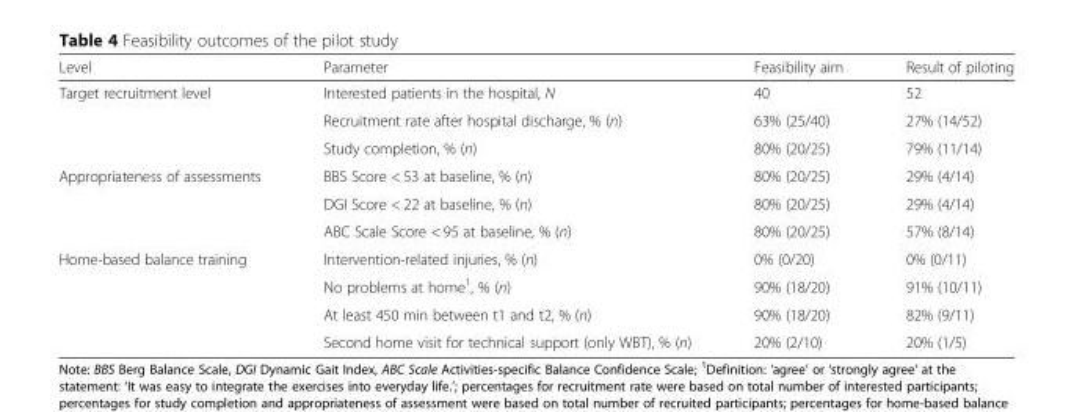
<table><thead><tr><td>Level</td><td>Parameter</td><td>Feasibility aim</td><td>Result of piloting</td></tr></thead><tbody><tr><td rowspan="3">Target recruitment level</td><td>Interested patients in the hospital, N</td><td>40</td><td>52</td></tr><tr><td>Recruitment rate after hospital discharge, % (n)</td><td>63% (25/40)</td><td>27% (14/52)</td></tr><tr><td>Study completion, % (n)</td><td>80% (20/25)</td><td>79% (11/14)</td></tr><tr><td rowspan="3">Appropriateness of assessments</td><td>BBS Score &lt; 53 at baseline, % (n)</td><td>80% (20/25)</td><td>29% (4/14)</td></tr><tr><td>DGI Score &lt; 22 at baseline, % (n)</td><td>80% (20/25)</td><td>29% (4/14)</td></tr><tr><td>ABC Scale Score &lt; 95 at baseline, % (n)</td><td>80% (20/25)</td><td>57% (8/14)</td></tr><tr><td rowspan="4">Home-based balance training</td><td>Intervention-related injuries, % (n)</td><td>0% (0/20)</td><td>0% (0/11)</td></tr><tr><td>No problems at home<sup>1</sup>, % (n)</td><td>90% (18/20)</td><td>91% (10/11)</td></tr><tr><td>At least 450 min between t1 and t2, % (n)</td><td>90% (18/20)</td><td>82% (9/11)</td></tr><tr><td>Second home visit for technical support (only WBT), % (n)</td><td>20% (2/10)</td><td>20% (1/5)</td></tr></tbody></table>